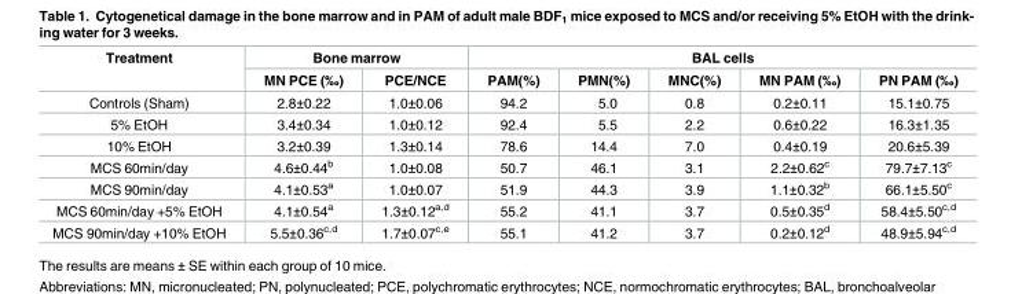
<table><thead><tr><td rowspan="2">Treatment</td><td colspan="2">Bone marrow</td><td colspan="5">BAL cells</td></tr><tr><td>MN PCE (‰)</td><td>PCE/NCE</td><td>PAM(%)</td><td>PMN(%)</td><td>MNC(%)</td><td>MN PAM (‰)</td><td>PN PAM (‰)</td></tr></thead><tbody><tr><td>Controls (Sham)</td><td>2.8±0.22</td><td>1.0±0.06</td><td>94.2</td><td>5.0</td><td>0.8</td><td>0.2±0.11</td><td>15.1±0.75</td></tr><tr><td>5% EtOH</td><td>3.4±0.34</td><td>1.0±0.12</td><td>92.4</td><td>5.5</td><td>2.2</td><td>0.6±0.22</td><td>16.3±1.35</td></tr><tr><td>10% EtOH</td><td>3.2±0.39</td><td>1.3±0.14</td><td>78.6</td><td>14.4</td><td>7.0</td><td>0.4±0.19</td><td>20.6±5.39</td></tr><tr><td>MCS 60min/day</td><td>4.6±0.44<sup>b</sup></td><td>1.0±0.08</td><td>50.7</td><td>46.1</td><td>3.1</td><td>2.2±0.62<sup>c</sup></td><td>79.7±7.13<sup>c</sup></td></tr><tr><td>MCS 90min/day</td><td>4.1±0.53<sup>a</sup></td><td>1.0±0.07</td><td>51.9</td><td>44.3</td><td>3.9</td><td>1.1±0.32<sup>b</sup></td><td>66.1±5.50<sup>c</sup></td></tr><tr><td>MCS 60min/day +5% EtOH</td><td>4.1±0.54<sup>a</sup></td><td>1.3±0.12<sup>a,d</sup></td><td>55.2</td><td>41.1</td><td>3.7</td><td>0.5±0.35<sup>d</sup></td><td>58.4±5.50<sup>c,d</sup></td></tr><tr><td>MCS 90min/day +10% EtOH</td><td>5.5±0.36<sup>c,d</sup></td><td>1.7±0.07<sup>c,e</sup></td><td>55.1</td><td>41.2</td><td>3.7</td><td>0.2±0.12<sup>d</sup></td><td>48.9±5.94<sup>c,d</sup></td></tr></tbody></table>